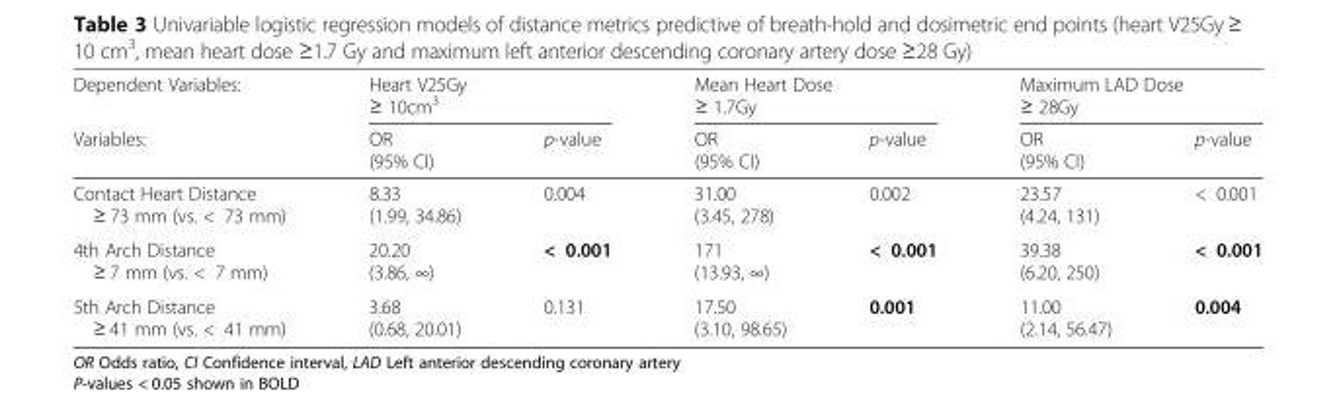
<table><thead><tr><td rowspan="2">Dependent Variables: Variables:</td><td colspan="2">Heart V25Gy ≥ 10cm<sup>3</sup></td><td colspan="2">Mean Heart Dose ≥ 1.7Gy</td><td colspan="2">Maximum LAD Dose ≥ 28Gy</td></tr><tr><td>OR (95% CI)</td><td>p-value</td><td>OR (95% CI)</td><td>p-value</td><td>OR (95% CI)</td><td>p-value</td></tr></thead><tbody><tr><td>Contact Heart Distance ≥ 73 mm (vs. &lt; 73 mm)</td><td>8.33 (1.99, 34.86)</td><td>0.004</td><td>31.00 (3.45, 278)</td><td>0.002</td><td>23.57 (4.24, 131)</td><td>&lt; 0.001</td></tr><tr><td>4th Arch Distance ≥ 7 mm (vs. &lt; 7 mm)</td><td>20.20 (3.86, ∞)</td><td>&lt; 0.001</td><td>171 (13.93, ∞)</td><td>&lt; 0.001</td><td>39.38 (6.20, 250)</td><td>&lt; 0.001</td></tr><tr><td>5th Arch Distance ≥ 41 mm (vs. &lt; 41 mm)</td><td>3.68 (0.68, 20.01)</td><td>0.131</td><td>17.50 (3.10, 98.65)</td><td>0.001</td><td>11.00 (2.14, 56.47)</td><td>0.004</td></tr></tbody></table>